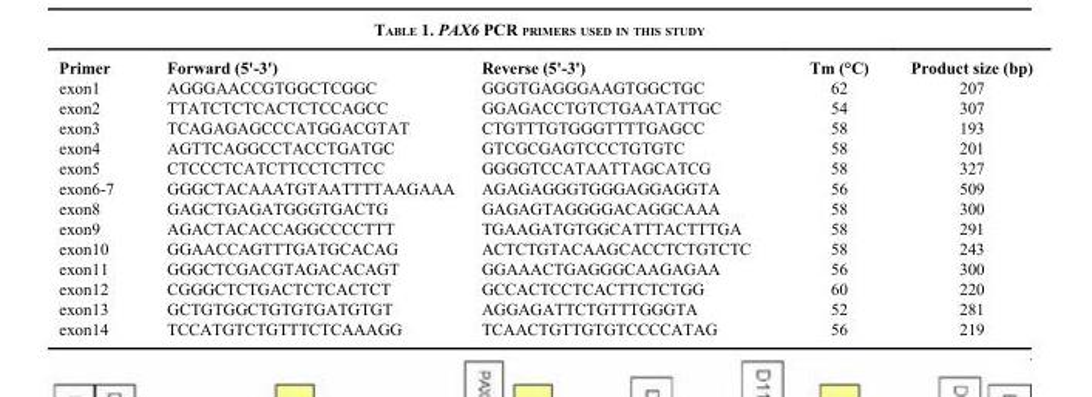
<table><thead><tr><td>Primer</td><td>Forward (5&#x27;-3&#x27;)</td><td>Reverse (5&#x27;-3&#x27;)</td><td>Tm (°C)</td><td>Product size (bp)</td></tr></thead><tbody><tr><td>exon1</td><td>AGGGAACCGTGGCTCGGC</td><td>GGGTGAGGGAAGTGGCTGC</td><td>62</td><td>207</td></tr><tr><td>exon2</td><td>TTATCTCTCACTCTCCAGCC</td><td>GGAGACCTGTCTGAATATTGC</td><td>54</td><td>307</td></tr><tr><td>exon3</td><td>TCAGAGAGCCCATGGACGTAT</td><td>CTGTTTGTGGGTTTTGAGCC</td><td>58</td><td>193</td></tr><tr><td>exon4</td><td>AGTTCAGGCCTACCTGATGC</td><td>GTCGCGAGTCCCTGTGTC</td><td>58</td><td>201</td></tr><tr><td>exon5</td><td>CTCCCTCATCTTCCTCTTCC</td><td>GGGGTCCATAATTAGCATCG</td><td>58</td><td>327</td></tr><tr><td>exon6-7</td><td>GGGCTACAAATGTAATTTTAAGAAA</td><td>AGAGAGGGTGGGAGGAGGTA</td><td>56</td><td>509</td></tr><tr><td>exon8</td><td>GAGCTGAGATGGGTGACTG</td><td>GAGAGTAGGGGACAGGCAAA</td><td>58</td><td>300</td></tr><tr><td>exon9</td><td>AGACTACACCAGGCCCCTTT</td><td>TGAAGATGTGGCATTTACTTTGA</td><td>58</td><td>291</td></tr><tr><td>exon10</td><td>GGAACCAGTTTGATGCACAG</td><td>ACTCTGTACAAGCACCTCTGTCTC</td><td>58</td><td>243</td></tr><tr><td>exon11</td><td>GGGCTCGACGTAGACACAGT</td><td>GGAAACTGAGGGCAAGAGAA</td><td>56</td><td>300</td></tr><tr><td>exon12</td><td>CGGGCTCTGACTCTCACTCT</td><td>GCCACTCCTCACTTCTCTGG</td><td>60</td><td>220</td></tr><tr><td>exon13</td><td>GCTGTGGCTGTGTGATGTGT</td><td>AGGAGATTCTGTTTGGGTA</td><td>52</td><td>281</td></tr><tr><td>exon14</td><td>TCCATGTCTGTTTCTCAAAGG</td><td>TCAACTGTTGTGTCCCCATAG</td><td>56</td><td>219</td></tr></tbody></table>